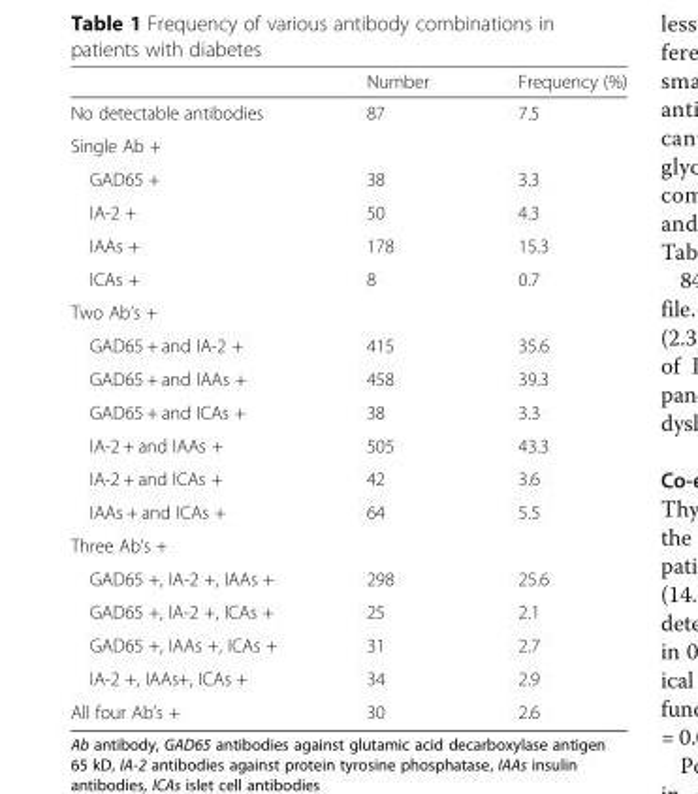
<table><thead><tr><td></td><td>Number</td><td>Frequency (%)</td></tr></thead><tbody><tr><td>No detectable antibodies</td><td>87</td><td>7.5</td></tr><tr><td colspan="3">Single Ab +</td></tr><tr><td>GAD65 +</td><td>38</td><td>3.3</td></tr><tr><td>IA-2 +</td><td>50</td><td>4.3</td></tr><tr><td>IAAs +</td><td>178</td><td>15.3</td></tr><tr><td>ICAs +</td><td>8</td><td>0.7</td></tr><tr><td colspan="3">Two Ab’s +</td></tr><tr><td>GAD65 + and IA-2 +</td><td>415</td><td>35.6</td></tr><tr><td>GAD65 + and IAAs +</td><td>458</td><td>39.3</td></tr><tr><td>GAD65 + and ICAs +</td><td>38</td><td>3.3</td></tr><tr><td>IA-2 + and IAAs +</td><td>505</td><td>43.3</td></tr><tr><td>IA-2 + and ICAs +</td><td>42</td><td>3.6</td></tr><tr><td>IAAs + and ICAs +</td><td>64</td><td>5.5</td></tr><tr><td colspan="3">Three Ab’s +</td></tr><tr><td>GAD65 +, IA-2 +, IAAs +</td><td>298</td><td>25.6</td></tr><tr><td>GAD65 +, IA-2 +, ICAs +</td><td>25</td><td>2.1</td></tr><tr><td>GAD65 +, IAAs +, ICAs +</td><td>31</td><td>2.7</td></tr><tr><td>IA-2 +, IAAs+, ICAs +</td><td>34</td><td>2.9</td></tr><tr><td>All four Ab’s +</td><td>30</td><td>2.6</td></tr></tbody></table>